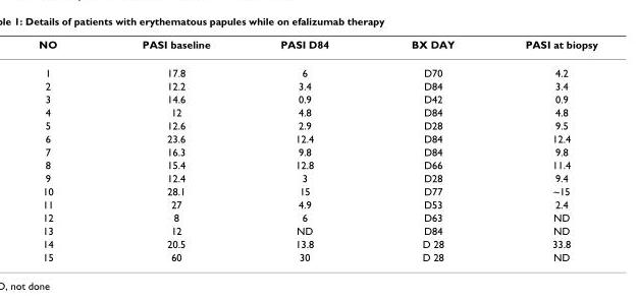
<table><thead><tr><td>NO</td><td>PASI baseline</td><td>PASI D84</td><td>BX DAY</td><td>PASI at biopsy</td></tr></thead><tbody><tr><td>1</td><td>17.8</td><td>6</td><td>D70</td><td>4.2</td></tr><tr><td>2</td><td>12.2</td><td>3.4</td><td>D84</td><td>3.4</td></tr><tr><td>3</td><td>14.6</td><td>0.9</td><td>D42</td><td>0.9</td></tr><tr><td>4</td><td>12</td><td>4.8</td><td>D84</td><td>4.8</td></tr><tr><td>5</td><td>12.6</td><td>2.9</td><td>D28</td><td>9.5</td></tr><tr><td>6</td><td>23.6</td><td>12.4</td><td>D84</td><td>12.4</td></tr><tr><td>7</td><td>16.3</td><td>9.8</td><td>D84</td><td>9.8</td></tr><tr><td>8</td><td>15.4</td><td>12.8</td><td>D66</td><td>11.4</td></tr><tr><td>9</td><td>12.4</td><td>3</td><td>D28</td><td>9.4</td></tr><tr><td>10</td><td>28.1</td><td>15</td><td>D77</td><td>~15</td></tr><tr><td>11</td><td>27</td><td>4.9</td><td>D53</td><td>2.4</td></tr><tr><td>12</td><td>8</td><td>6</td><td>D63</td><td>ND</td></tr><tr><td>13</td><td>12</td><td>ND</td><td>D84</td><td>ND</td></tr><tr><td>14</td><td>20.5</td><td>13.8</td><td>D 28</td><td>33.8</td></tr><tr><td>15</td><td>60</td><td>30</td><td>D 28</td><td>ND</td></tr></tbody></table>